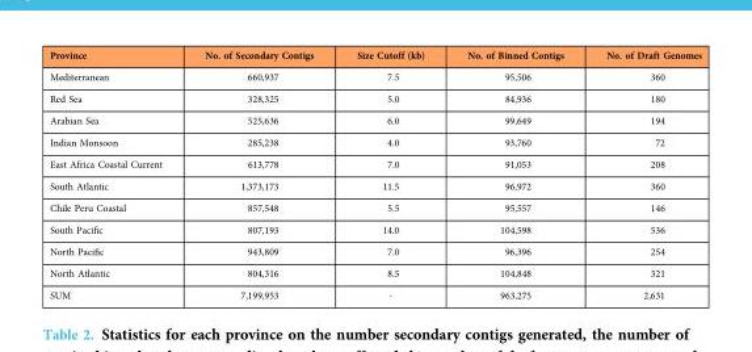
<table><thead><tr><td>Province</td><td>No. of Secondary Contigs</td><td>Size Cutoff (kb)</td><td>No. of Binned Contigs</td><td>No. of Draft Genomes</td></tr></thead><tbody><tr><td>Mediterranean</td><td>660,937</td><td>7.5</td><td>95,506</td><td>360</td></tr><tr><td>Red Sea</td><td>328,325</td><td>5.0</td><td>84,936</td><td>180</td></tr><tr><td>Arabian Sea</td><td>525,636</td><td>6.0</td><td>99,649</td><td>194</td></tr><tr><td>Indian Monsoon</td><td>285,238</td><td>4.0</td><td>93,760</td><td>72</td></tr><tr><td>East Africa Coastal Current</td><td>613,778</td><td>7.0</td><td>91,053</td><td>208</td></tr><tr><td>South Atlantic</td><td>1,373,173</td><td>11.5</td><td>96,972</td><td>360</td></tr><tr><td>Chile Peru Coastal</td><td>857,548</td><td>5.5</td><td>95,557</td><td>146</td></tr><tr><td>South Pacific</td><td>807,193</td><td>14.0</td><td>104,598</td><td>536</td></tr><tr><td>North Pacific</td><td>943,809</td><td>7.0</td><td>96,396</td><td>254</td></tr><tr><td>North Atlantic</td><td>804,316</td><td>8.5</td><td>104,848</td><td>321</td></tr><tr><td>SUM</td><td>7,199,953</td><td>-</td><td>963,275</td><td>2,631</td></tr></tbody></table>